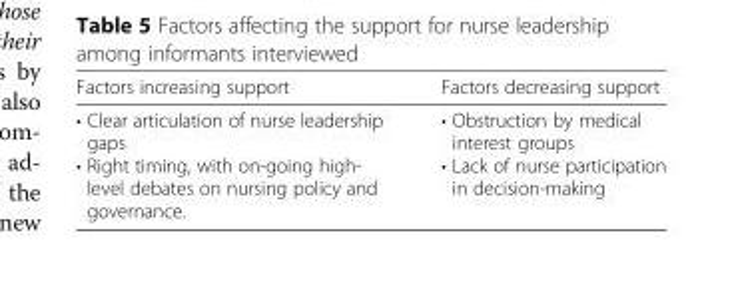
<table><thead><tr><td>Factors increasing support</td><td>Factors decreasing support</td></tr></thead><tbody><tr><td>• Clear articulation of nurse leadership gaps • Right timing, with on-going high- level debates on nursing policy and governance.</td><td>• Obstruction by medical interest groups • Lack of nurse participation in decision-making</td></tr></tbody></table>